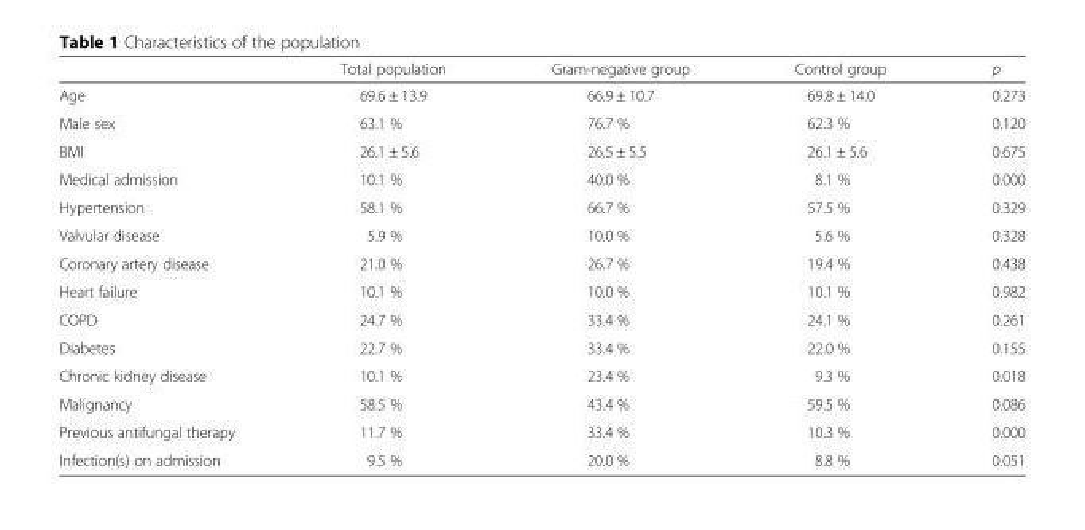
<table><thead><tr><td></td><td>Total population</td><td>Gram-negative group</td><td>Control group</td><td>p</td></tr></thead><tbody><tr><td>Age</td><td>69.6 ± 13.9</td><td>66.9 ± 10.7</td><td>69.8 ± 14.0</td><td>0.273</td></tr><tr><td>Male sex</td><td>63.1 %</td><td>76.7 %</td><td>62.3 %</td><td>0.120</td></tr><tr><td>BMI</td><td>26.1 ± 5.6</td><td>26.5 ± 5.5</td><td>26.1 ± 5.6</td><td>0.675</td></tr><tr><td>Medical admission</td><td>10.1 %</td><td>40.0 %</td><td>8.1 %</td><td>0.000</td></tr><tr><td>Hypertension</td><td>58.1 %</td><td>66.7 %</td><td>57.5 %</td><td>0.329</td></tr><tr><td>Valvular disease</td><td>5.9 %</td><td>10.0 %</td><td>5.6 %</td><td>0.328</td></tr><tr><td>Coronary artery disease</td><td>21.0 %</td><td>26.7 %</td><td>19.4 %</td><td>0.438</td></tr><tr><td>Heart failure</td><td>10.1 %</td><td>10.0 %</td><td>10.1 %</td><td>0.982</td></tr><tr><td>COPD</td><td>24.7 %</td><td>33.4 %</td><td>24.1 %</td><td>0.261</td></tr><tr><td>Diabetes</td><td>22.7 %</td><td>33.4 %</td><td>22.0 %</td><td>0.155</td></tr><tr><td>Chronic kidney disease</td><td>10.1 %</td><td>23.4 %</td><td>9.3 %</td><td>0.018</td></tr><tr><td>Malignancy</td><td>58.5 %</td><td>43.4 %</td><td>59.5 %</td><td>0.086</td></tr><tr><td>Previous antifungal therapy</td><td>11.7 %</td><td>33.4 %</td><td>10.3 %</td><td>0.000</td></tr><tr><td>Infection(s) on admission</td><td>9.5 %</td><td>20.0 %</td><td>8.8 %</td><td>0.051</td></tr></tbody></table>